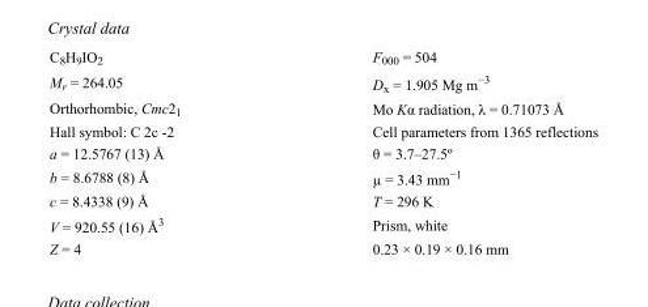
<table><tbody><tr><td>C<sub>8</sub>H<sub>9</sub>IO<sub>2</sub></td><td>F000 = 504</td></tr><tr><td>M<sub>r</sub> = 264.05</td><td>D<sub>x</sub> = 1.905 Mg m<sup>−3</sup></td></tr><tr><td>Orthorhombic, Cmc2<sub>1</sub></td><td>Mo Kα radiation, λ = 0.71073 Å</td></tr><tr><td>Hall symbol: C 2c -2</td><td>Cell parameters from 1365 reflections</td></tr><tr><td>a = 12.5767 (13) Å</td><td>θ = 3.7–27.5º</td></tr><tr><td>b = 8.6788 (8) Å</td><td>µ = 3.43 mm<sup>−1</sup></td></tr><tr><td>c = 8.4338 (9) Å</td><td>T = 296 K</td></tr><tr><td>V = 920.55 (16) Å<sup>3</sup></td><td>Prism, white</td></tr><tr><td>Z = 4</td><td>0.23 × 0.19 × 0.16 mm</td></tr></tbody></table>